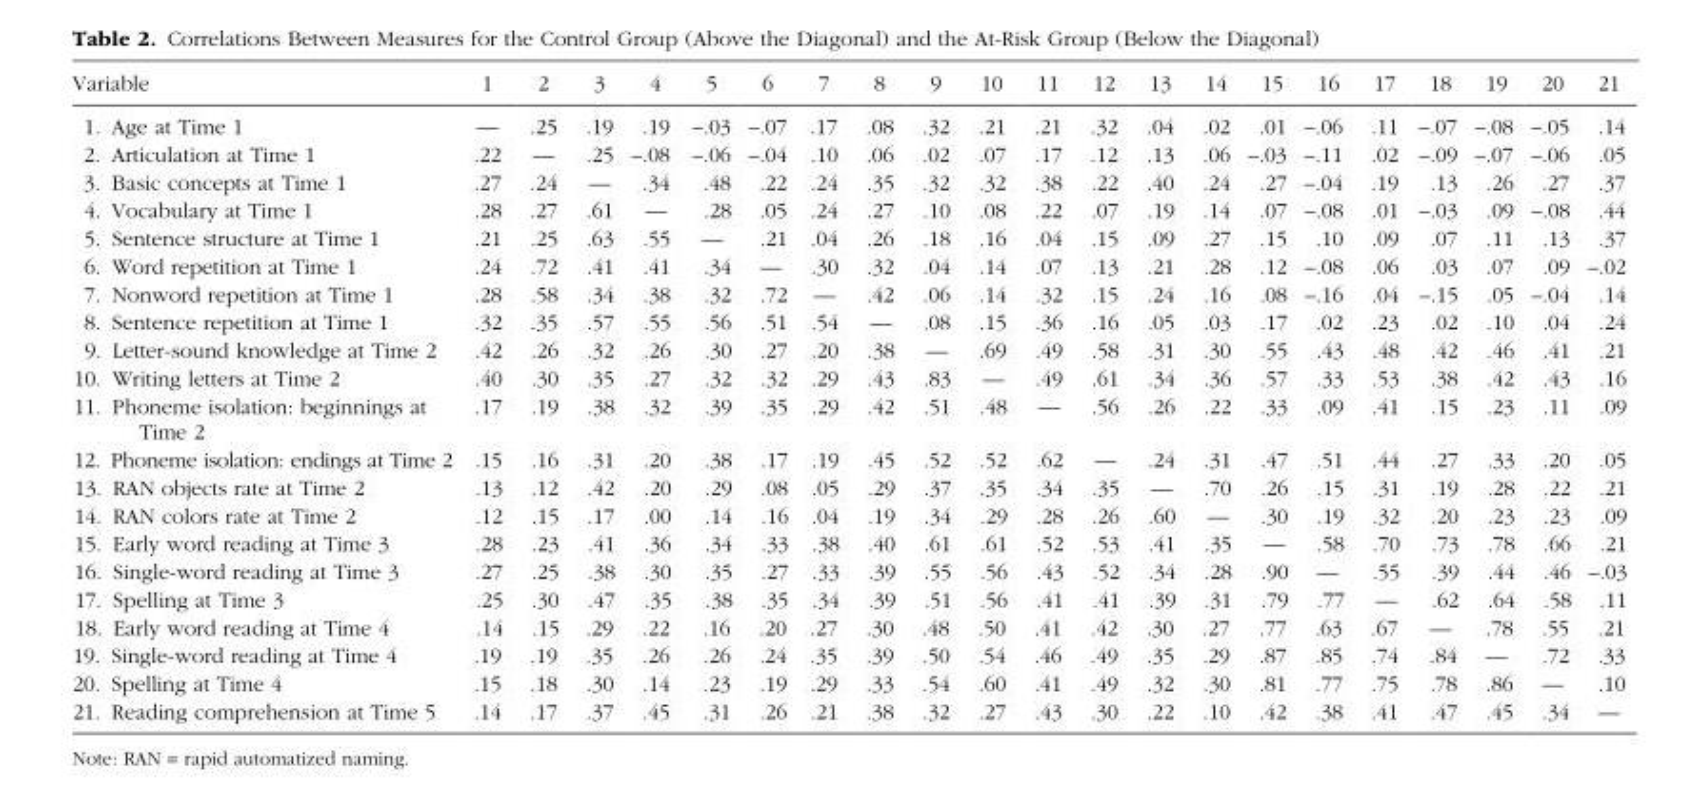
<table><thead><tr><td>Variable</td><td>1</td><td>2</td><td>3</td><td>4</td><td>5</td><td>6</td><td>7</td><td>8</td><td>9</td><td>10</td><td>11</td><td>12</td><td>13</td><td>14</td><td>15</td><td>16</td><td>17</td><td>18</td><td>19</td><td>20</td><td>21</td></tr></thead><tbody><tr><td>1. Age at Time 1</td><td>—</td><td>.25</td><td>.19</td><td>.19</td><td>–.03</td><td>–.07</td><td>.17</td><td>.08</td><td>.32</td><td>.21</td><td>.21</td><td>.32</td><td>.04</td><td>.02</td><td>.01</td><td>–.06</td><td>.11</td><td>–.07</td><td>–.08</td><td>–.05</td><td>.14</td></tr><tr><td>2. Articulation at Time 1</td><td>.22</td><td>—</td><td>.25</td><td>–.08</td><td>–.06</td><td>–.04</td><td>.10</td><td>.06</td><td>.02</td><td>.07</td><td>.17</td><td>.12</td><td>.13</td><td>.06</td><td>–.03</td><td>–.11</td><td>.02</td><td>–.09</td><td>–.07</td><td>–.06</td><td>.05</td></tr><tr><td>3. Basic concepts at Time 1</td><td>.27</td><td>.24</td><td>—</td><td>.34</td><td>.48</td><td>.22</td><td>.24</td><td>.35</td><td>.32</td><td>.32</td><td>.38</td><td>.22</td><td>.40</td><td>.24</td><td>.27</td><td>–.04</td><td>.19</td><td>.13</td><td>.26</td><td>.27</td><td>.37</td></tr><tr><td>4. Vocabulary at Time 1</td><td>.28</td><td>.27</td><td>.61</td><td>—</td><td>.28</td><td>.05</td><td>.24</td><td>.27</td><td>.10</td><td>.08</td><td>.22</td><td>.07</td><td>.19</td><td>.14</td><td>.07</td><td>–.08</td><td>.01</td><td>–.03</td><td>.09</td><td>–.08</td><td>.44</td></tr><tr><td>5. Sentence structure at Time 1</td><td>.21</td><td>.25</td><td>.63</td><td>.55</td><td>—</td><td>.21</td><td>.04</td><td>.26</td><td>.18</td><td>.16</td><td>.04</td><td>.15</td><td>.09</td><td>.27</td><td>.15</td><td>.10</td><td>.09</td><td>.07</td><td>.11</td><td>.13</td><td>.37</td></tr><tr><td>6. Word repetition at Time 1</td><td>.24</td><td>.72</td><td>.41</td><td>.41</td><td>.34</td><td>—</td><td>.30</td><td>.32</td><td>.04</td><td>.14</td><td>.07</td><td>.13</td><td>.21</td><td>.28</td><td>.12</td><td>–.08</td><td>.06</td><td>.03</td><td>.07</td><td>.09</td><td>–.02</td></tr><tr><td>7. Nonword repetition at Time 1</td><td>.28</td><td>.58</td><td>.34</td><td>.38</td><td>.32</td><td>.72</td><td>—</td><td>.42</td><td>.06</td><td>.14</td><td>.32</td><td>.15</td><td>.24</td><td>.16</td><td>.08</td><td>–.16</td><td>.04</td><td>–.15</td><td>.05</td><td>–.04</td><td>.14</td></tr><tr><td>8. Sentence repetition at Time 1</td><td>.32</td><td>.35</td><td>.57</td><td>.55</td><td>.56</td><td>.51</td><td>.54</td><td>—</td><td>.08</td><td>.15</td><td>.36</td><td>.16</td><td>.05</td><td>.03</td><td>.17</td><td>.02</td><td>.23</td><td>.02</td><td>.10</td><td>.04</td><td>.24</td></tr><tr><td>9. Letter-sound knowledge at Time 2</td><td>.42</td><td>.26</td><td>.32</td><td>.26</td><td>.30</td><td>.27</td><td>.20</td><td>.38</td><td>—</td><td>.69</td><td>.49</td><td>.58</td><td>.31</td><td>.30</td><td>.55</td><td>.43</td><td>.48</td><td>.42</td><td>.46</td><td>.41</td><td>.21</td></tr><tr><td>10. Writing letters at Time 2</td><td>.40</td><td>.30</td><td>.35</td><td>.27</td><td>.32</td><td>.32</td><td>.29</td><td>.43</td><td>.83</td><td>—</td><td>.49</td><td>.61</td><td>.34</td><td>.36</td><td>.57</td><td>.33</td><td>.53</td><td>.38</td><td>.42</td><td>.43</td><td>.16</td></tr><tr><td>11. Phoneme isolation: beginnings at Time 2</td><td>.17</td><td>.19</td><td>.38</td><td>.32</td><td>.39</td><td>.35</td><td>.29</td><td>.42</td><td>.51</td><td>.48</td><td>—</td><td>.56</td><td>.26</td><td>.22</td><td>.33</td><td>.09</td><td>.41</td><td>.15</td><td>.23</td><td>.11</td><td>.09</td></tr><tr><td>12. Phoneme isolation: endings at Time 2</td><td>.15</td><td>.16</td><td>.31</td><td>.20</td><td>.38</td><td>.17</td><td>.19</td><td>.45</td><td>.52</td><td>.52</td><td>.62</td><td>—</td><td>.24</td><td>.31</td><td>.47</td><td>.51</td><td>.44</td><td>.27</td><td>.33</td><td>.20</td><td>.05</td></tr><tr><td>13. RAN objects rate at Time 2</td><td>.13</td><td>.12</td><td>.42</td><td>.20</td><td>.29</td><td>.08</td><td>.05</td><td>.29</td><td>.37</td><td>.35</td><td>.34</td><td>.35</td><td>—</td><td>.70</td><td>.26</td><td>.15</td><td>.31</td><td>.19</td><td>.28</td><td>.22</td><td>.21</td></tr><tr><td>14. RAN colors rate at Time 2</td><td>.12</td><td>.15</td><td>.17</td><td>.00</td><td>.14</td><td>.16</td><td>.04</td><td>.19</td><td>.34</td><td>.29</td><td>.28</td><td>.26</td><td>.60</td><td>—</td><td>.30</td><td>.19</td><td>.32</td><td>.20</td><td>.23</td><td>.23</td><td>.09</td></tr><tr><td>15. Early word reading at Time 3</td><td>.28</td><td>.23</td><td>.41</td><td>.36</td><td>.34</td><td>.33</td><td>.38</td><td>.40</td><td>.61</td><td>.61</td><td>.52</td><td>.53</td><td>.41</td><td>.35</td><td>—</td><td>.58</td><td>.70</td><td>.73</td><td>.78</td><td>.66</td><td>.21</td></tr><tr><td>16. Single-word reading at Time 3</td><td>.27</td><td>.25</td><td>.38</td><td>.30</td><td>.35</td><td>.27</td><td>.33</td><td>.39</td><td>.55</td><td>.56</td><td>.43</td><td>.52</td><td>.34</td><td>.28</td><td>.90</td><td>—</td><td>.55</td><td>.39</td><td>.44</td><td>.46</td><td>–.03</td></tr><tr><td>17. Spelling at Time 3</td><td>.25</td><td>.30</td><td>.47</td><td>.35</td><td>.38</td><td>.35</td><td>.34</td><td>.39</td><td>.51</td><td>.56</td><td>.41</td><td>.41</td><td>.39</td><td>.31</td><td>.79</td><td>.77</td><td>—</td><td>.62</td><td>.64</td><td>.58</td><td>.11</td></tr><tr><td>18. Early word reading at Time 4</td><td>.14</td><td>.15</td><td>.29</td><td>.22</td><td>.16</td><td>.20</td><td>.27</td><td>.30</td><td>.48</td><td>.50</td><td>.41</td><td>.42</td><td>.30</td><td>.27</td><td>.77</td><td>.63</td><td>.67</td><td>—</td><td>.78</td><td>.55</td><td>.21</td></tr><tr><td>19. Single-word reading at Time 4</td><td>.19</td><td>.19</td><td>.35</td><td>.26</td><td>.26</td><td>.24</td><td>.35</td><td>.39</td><td>.50</td><td>.54</td><td>.46</td><td>.49</td><td>.35</td><td>.29</td><td>.87</td><td>.85</td><td>.74</td><td>.84</td><td>—</td><td>.72</td><td>.33</td></tr><tr><td>20. Spelling at Time 4</td><td>.15</td><td>.18</td><td>.30</td><td>.14</td><td>.23</td><td>.19</td><td>.29</td><td>.33</td><td>.54</td><td>.60</td><td>.41</td><td>.49</td><td>.32</td><td>.30</td><td>.81</td><td>.77</td><td>.75</td><td>.78</td><td>.86</td><td>—</td><td>.10</td></tr><tr><td>21. Reading comprehension at Time 5</td><td>.14</td><td>.17</td><td>.37</td><td>.45</td><td>.31</td><td>.26</td><td>.21</td><td>.38</td><td>.32</td><td>.27</td><td>.43</td><td>.30</td><td>.22</td><td>.10</td><td>.42</td><td>.38</td><td>.41</td><td>.47</td><td>.45</td><td>.34</td><td>—</td></tr></tbody></table>